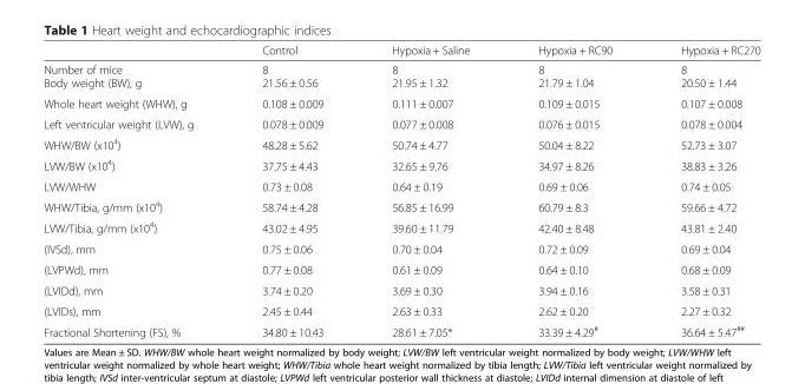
<table><thead><tr><td rowspan="2">Number of mice</td><td rowspan="2">Control 8</td><td rowspan="2">Hypoxia + Saline 8</td><td rowspan="2">Hypoxia + RC90 8</td><td rowspan="2">Hypoxia + RC270 8</td></tr><tr></tr></thead><tbody><tr><td>Body weight (BW), g</td><td>21.56 ± 0.56</td><td>21.95 ± 1.32</td><td>21.79 ± 1.04</td><td>20.50 ± 1.44</td></tr><tr><td>Whole heart weight (WHW), g</td><td>0.108 ± 0.009</td><td>0.111 ± 0.007</td><td>0.109 ± 0.015</td><td>0.107 ± 0.008</td></tr><tr><td>Left ventricular weight (LVW), g</td><td>0.078 ± 0.009</td><td>0.077 ± 0.008</td><td>0.076 ± 0.015</td><td>0.078 ± 0.004</td></tr><tr><td>WHW/BW (x10<sup>4</sup>)</td><td>48.28 ± 5.62</td><td>50.74 ± 4.77</td><td>50.04 ± 8.22</td><td>52.73 ± 3.07</td></tr><tr><td>LVW/BW (x10<sup>4</sup>)</td><td>37.75 ± 4.43</td><td>32.65 ± 9.76</td><td>34.97 ± 8.26</td><td>38.83 ± 3.26</td></tr><tr><td>LVW/WHW</td><td>0.73 ± 0.08</td><td>0.64 ± 0.19</td><td>0.69 ± 0.06</td><td>0.74 ± 0.05</td></tr><tr><td>WHW/Tibia, g/mm (x10<sup>4</sup>)</td><td>58.74 ± 4.28</td><td>56.85 ± 16.99</td><td>60.79 ± 8.3</td><td>59.66 ± 4.72</td></tr><tr><td>LVW/Tibia, g/mm (x10<sup>4</sup>)</td><td>43.02 ± 4.95</td><td>39.60 ± 11.79</td><td>42.40 ± 8.48</td><td>43.81 ± 2.40</td></tr><tr><td>(IVSd), mm</td><td>0.75 ± 0.06</td><td>0.70 ± 0.04</td><td>0.72 ± 0.09</td><td>0.69 ± 0.04</td></tr><tr><td>(LVPWd), mm</td><td>0.77 ± 0.08</td><td>0.61 ± 0.09</td><td>0.64 ± 0.10</td><td>0.68 ± 0.09</td></tr><tr><td>(LVIDd), mm</td><td>3.74 ± 0.20</td><td>3.69 ± 0.30</td><td>3.94 ± 0.16</td><td>3.58 ± 0.31</td></tr><tr><td>(LVIDs), mm</td><td>2.45 ± 0.44</td><td>2.63 ± 0.33</td><td>2.62 ± 0.20</td><td>2.27 ± 0.32</td></tr><tr><td>Fractional Shortening (FS), %</td><td>34.80 ± 10.43</td><td>28.61 ± 7.05*</td><td>33.39 ± 4.29<sup>#</sup></td><td>36.64 ± 5.47<sup>##</sup></td></tr></tbody></table>